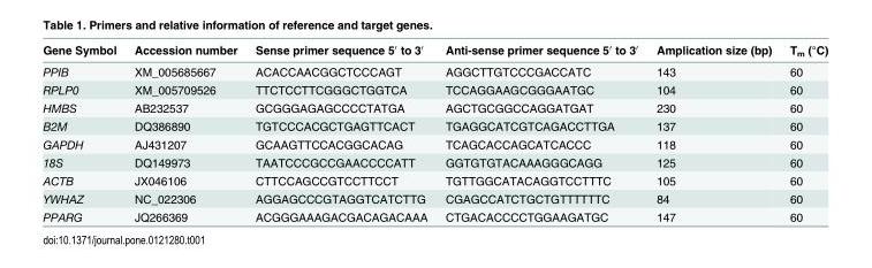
<table><thead><tr><td>Gene Symbol</td><td>Accession number</td><td>Sense primer sequence 5′ to 3′</td><td>Anti-sense primer sequence 5′ to 3′</td><td>Amplication size (bp)</td><td>T<sub>m</sub> (°C)</td></tr></thead><tbody><tr><td>PPIB</td><td>XM_005685667</td><td>ACACCAACGGCTCCCAGT</td><td>AGGCTTGTCCCGACCATC</td><td>143</td><td>60</td></tr><tr><td>RPLP0</td><td>XM_005709526</td><td>TTCTCCTTCGGGCTGGTCA</td><td>TCCAGGAAGCGGGAATGC</td><td>104</td><td>60</td></tr><tr><td>HMBS</td><td>AB232537</td><td>GCGGGAGAGCCCCTATGA</td><td>AGCTGCGGCCAGGATGAT</td><td>230</td><td>60</td></tr><tr><td>B2M</td><td>DQ386890</td><td>TGTCCCACGCTGAGTTCACT</td><td>TGAGGCATCGTCAGACCTTGA</td><td>137</td><td>60</td></tr><tr><td>GAPDH</td><td>AJ431207</td><td>GCAAGTTCCACGGCACAG</td><td>TCAGCACCAGCATCACCC</td><td>118</td><td>60</td></tr><tr><td>18S</td><td>DQ149973</td><td>TAATCCCGCCGAACCCCATT</td><td>GGTGTGTACAAAGGGCAGG</td><td>125</td><td>60</td></tr><tr><td>ACTB</td><td>JX046106</td><td>CTTCCAGCCGTCCTTCCT</td><td>TGTTGGCATACAGGTCCTTTC</td><td>105</td><td>60</td></tr><tr><td>YWHAZ</td><td>NC_022306</td><td>AGGAGCCCGTAGGTCATCTTG</td><td>CGAGCCATCTGCTGTTTTTTC</td><td>84</td><td>60</td></tr><tr><td>PPARG</td><td>JQ266369</td><td>ACGGGAAAGACGACAGACAAA</td><td>CTGACACCCCTGGAAGATGC</td><td>147</td><td>60</td></tr></tbody></table>